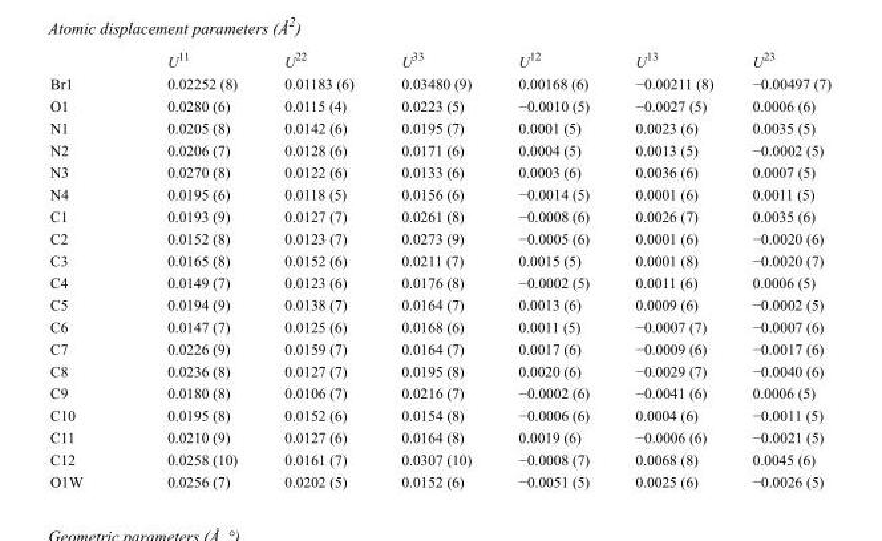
<table><thead><tr><td></td><td>U<sup>11</sup></td><td>U<sup>22</sup></td><td>U<sup>33</sup></td><td>U<sup>12</sup></td><td>U<sup>13</sup></td><td>U<sup>23</sup></td></tr></thead><tbody><tr><td>Br1</td><td>0.02252 (8)</td><td>0.01183 (6)</td><td>0.03480 (9)</td><td>0.00168 (6)</td><td>−0.00211 (8)</td><td>−0.00497 (7)</td></tr><tr><td>O1</td><td>0.0280 (6)</td><td>0.0115 (4)</td><td>0.0223 (5)</td><td>−0.0010 (5)</td><td>−0.0027 (5)</td><td>0.0006 (6)</td></tr><tr><td>N1</td><td>0.0205 (8)</td><td>0.0142 (6)</td><td>0.0195 (7)</td><td>0.0001 (5)</td><td>0.0023 (6)</td><td>0.0035 (5)</td></tr><tr><td>N2</td><td>0.0206 (7)</td><td>0.0128 (6)</td><td>0.0171 (6)</td><td>0.0004 (5)</td><td>0.0013 (5)</td><td>−0.0002 (5)</td></tr><tr><td>N3</td><td>0.0270 (8)</td><td>0.0122 (6)</td><td>0.0133 (6)</td><td>0.0003 (6)</td><td>0.0036 (6)</td><td>0.0007 (5)</td></tr><tr><td>N4</td><td>0.0195 (6)</td><td>0.0118 (5)</td><td>0.0156 (6)</td><td>−0.0014 (5)</td><td>0.0001 (6)</td><td>0.0011 (5)</td></tr><tr><td>C1</td><td>0.0193 (9)</td><td>0.0127 (7)</td><td>0.0261 (8)</td><td>−0.0008 (6)</td><td>0.0026 (7)</td><td>0.0035 (6)</td></tr><tr><td>C2</td><td>0.0152 (8)</td><td>0.0123 (7)</td><td>0.0273 (9)</td><td>−0.0005 (6)</td><td>0.0001 (6)</td><td>−0.0020 (6)</td></tr><tr><td>C3</td><td>0.0165 (8)</td><td>0.0152 (6)</td><td>0.0211 (7)</td><td>0.0015 (5)</td><td>0.0001 (8)</td><td>−0.0020 (7)</td></tr><tr><td>C4</td><td>0.0149 (7)</td><td>0.0123 (6)</td><td>0.0176 (8)</td><td>−0.0002 (5)</td><td>0.0011 (6)</td><td>0.0006 (5)</td></tr><tr><td>C5</td><td>0.0194 (9)</td><td>0.0138 (7)</td><td>0.0164 (7)</td><td>0.0013 (6)</td><td>0.0009 (6)</td><td>−0.0002 (5)</td></tr><tr><td>C6</td><td>0.0147 (7)</td><td>0.0125 (6)</td><td>0.0168 (6)</td><td>0.0011 (5)</td><td>−0.0007 (7)</td><td>−0.0007 (6)</td></tr><tr><td>C7</td><td>0.0226 (9)</td><td>0.0159 (7)</td><td>0.0164 (7)</td><td>0.0017 (6)</td><td>−0.0009 (6)</td><td>−0.0017 (6)</td></tr><tr><td>C8</td><td>0.0236 (8)</td><td>0.0127 (7)</td><td>0.0195 (8)</td><td>0.0020 (6)</td><td>−0.0029 (7)</td><td>−0.0040 (6)</td></tr><tr><td>C9</td><td>0.0180 (8)</td><td>0.0106 (7)</td><td>0.0216 (7)</td><td>−0.0002 (6)</td><td>−0.0041 (6)</td><td>0.0006 (5)</td></tr><tr><td>C10</td><td>0.0195 (8)</td><td>0.0152 (6)</td><td>0.0154 (8)</td><td>−0.0006 (6)</td><td>0.0004 (6)</td><td>−0.0011 (5)</td></tr><tr><td>C11</td><td>0.0210 (9)</td><td>0.0127 (6)</td><td>0.0164 (8)</td><td>0.0019 (6)</td><td>−0.0006 (6)</td><td>−0.0021 (5)</td></tr><tr><td>C12</td><td>0.0258 (10)</td><td>0.0161 (7)</td><td>0.0307 (10)</td><td>−0.0008 (7)</td><td>0.0068 (8)</td><td>0.0045 (6)</td></tr><tr><td>O1W</td><td>0.0256 (7)</td><td>0.0202 (5)</td><td>0.0152 (6)</td><td>−0.0051 (5)</td><td>0.0025 (6)</td><td>−0.0026 (5)</td></tr></tbody></table>